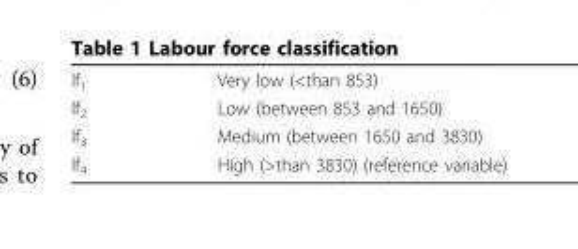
<table><tbody><tr><td>lf<sub>1</sub></td><td>Very low (&lt;than 853)</td></tr><tr><td>lf<sub>2</sub></td><td>Low (between 853 and 1650)</td></tr><tr><td>lf<sub>3</sub></td><td>Medium (between 1650 and 3830)</td></tr><tr><td>lf<sub>4</sub></td><td>High (&gt;than 3830) (reference variable)</td></tr></tbody></table>